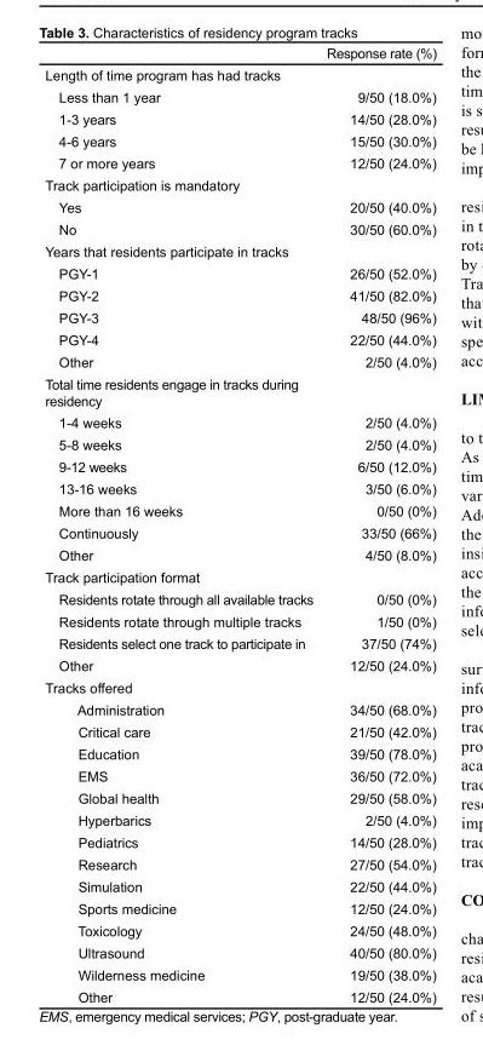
<table><thead><tr><td></td><td>Response rate (%)</td></tr></thead><tbody><tr><td colspan="2">Length of time program has had tracks</td></tr><tr><td>Less than 1 year</td><td>9/50 (18.0%)</td></tr><tr><td>1-3 years</td><td>14/50 (28.0%)</td></tr><tr><td>4-6 years</td><td>15/50 (30.0%)</td></tr><tr><td>7 or more years</td><td>12/50 (24.0%)</td></tr><tr><td colspan="2">Track participation is mandatory</td></tr><tr><td>Yes</td><td>20/50 (40.0%)</td></tr><tr><td>No</td><td>30/50 (60.0%)</td></tr><tr><td colspan="2">Years that residents participate in tracks</td></tr><tr><td>PGY-1</td><td>26/50 (52.0%)</td></tr><tr><td>PGY-2</td><td>41/50 (82.0%)</td></tr><tr><td>PGY-3</td><td>48/50 (96%)</td></tr><tr><td>PGY-4</td><td>22/50 (44.0%)</td></tr><tr><td>Other</td><td>2/50 (4.0%)</td></tr><tr><td colspan="2">Total time residents engage in tracks during residency</td></tr><tr><td>1-4 weeks</td><td>2/50 (4.0%)</td></tr><tr><td>5-8 weeks</td><td>2/50 (4.0%)</td></tr><tr><td>9-12 weeks</td><td>6/50 (12.0%)</td></tr><tr><td>13-16 weeks</td><td>3/50 (6.0%)</td></tr><tr><td>More than 16 weeks</td><td>0/50 (0%)</td></tr><tr><td>Continuously</td><td>33/50 (66%)</td></tr><tr><td>Other</td><td>4/50 (8.0%)</td></tr><tr><td colspan="2">Track participation format</td></tr><tr><td>Residents rotate through all available tracks</td><td>0/50 (0%)</td></tr><tr><td>Residents rotate through multiple tracks</td><td>1/50 (0%)</td></tr><tr><td>Residents select one track to participate in</td><td>37/50 (74%)</td></tr><tr><td>Other</td><td>12/50 (24.0%)</td></tr><tr><td colspan="2">Tracks offered</td></tr><tr><td>Administration</td><td>34/50 (68.0%)</td></tr><tr><td>Critical care</td><td>21/50 (42.0%)</td></tr><tr><td>Education</td><td>39/50 (78.0%)</td></tr><tr><td>EMS</td><td>36/50 (72.0%)</td></tr><tr><td>Global health</td><td>29/50 (58.0%)</td></tr><tr><td>Hyperbarics</td><td>2/50 (4.0%)</td></tr><tr><td>Pediatrics</td><td>14/50 (28.0%)</td></tr><tr><td>Research</td><td>27/50 (54.0%)</td></tr><tr><td>Simulation</td><td>22/50 (44.0%)</td></tr><tr><td>Sports medicine</td><td>12/50 (24.0%)</td></tr><tr><td>Toxicology</td><td>24/50 (48.0%)</td></tr><tr><td>Ultrasound</td><td>40/50 (80.0%)</td></tr><tr><td>Wilderness medicine</td><td>19/50 (38.0%)</td></tr><tr><td>Other</td><td>12/50 (24.0%)</td></tr></tbody></table>